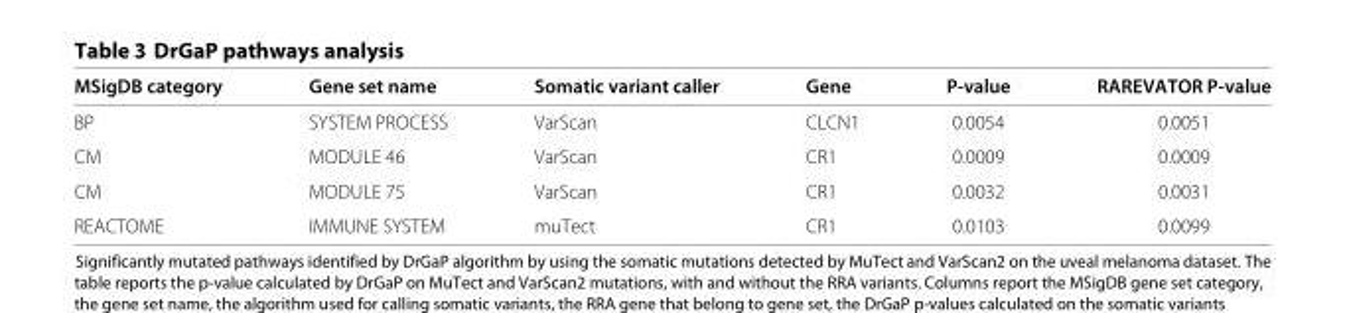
<table><thead><tr><td>MSigDB category</td><td>Gene set name</td><td>Somatic variant caller</td><td>Gene</td><td>P-value</td><td>RAREVATOR P-value</td></tr></thead><tbody><tr><td>BP</td><td>SYSTEM PROCESS</td><td>VarScan</td><td>CLCN1</td><td>0.0054</td><td>0.0051</td></tr><tr><td>CM</td><td>MODULE 46</td><td>VarScan</td><td>CR1</td><td>0.0009</td><td>0.0009</td></tr><tr><td>CM</td><td>MODULE 75</td><td>VarScan</td><td>CR1</td><td>0.0032</td><td>0.0031</td></tr><tr><td>REACTOME</td><td>IMMUNE SYSTEM</td><td>muTect</td><td>CR1</td><td>0.0103</td><td>0.0099</td></tr></tbody></table>